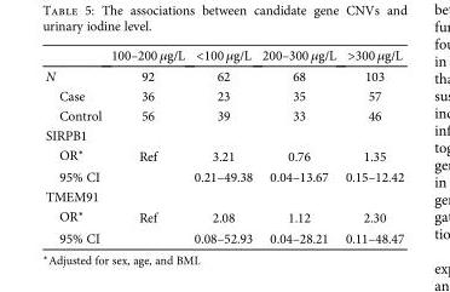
<table><thead><tr><td></td><td>100–200 μg/L</td><td>&lt;100 μg/L</td><td>200–300 μg/L</td><td>&gt;300 μg/L</td></tr></thead><tbody><tr><td>N</td><td>92</td><td>62</td><td>68</td><td>103</td></tr><tr><td>Case</td><td>36</td><td>23</td><td>35</td><td>57</td></tr><tr><td>Control</td><td>56</td><td>39</td><td>33</td><td>46</td></tr><tr><td colspan="5">SIRPB1</td></tr><tr><td>OR∗</td><td>Ref</td><td>3.21</td><td>0.76</td><td>1.35</td></tr><tr><td>95% CI</td><td></td><td>0.21–49.38</td><td>0.04–13.67</td><td>0.15–12.42</td></tr><tr><td colspan="5">TMEM91</td></tr><tr><td>OR∗</td><td>Ref</td><td>2.08</td><td>1.12</td><td>2.30</td></tr><tr><td>95% CI</td><td></td><td>0.08–52.93</td><td>0.04–28.21</td><td>0.11–48.47</td></tr></tbody></table>